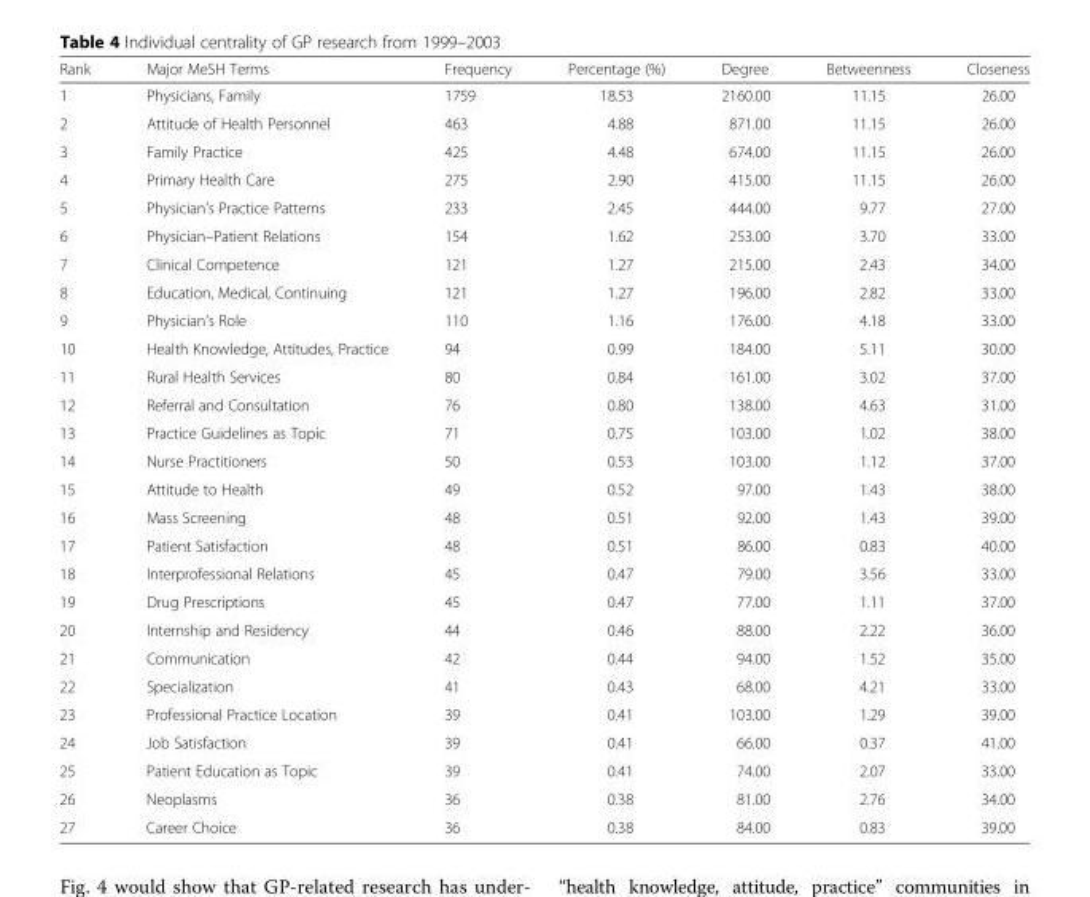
<table><thead><tr><td>Rank</td><td>Major MeSH Terms</td><td>Frequency</td><td>Percentage (%)</td><td>Degree</td><td>Betweenness</td><td>Closeness</td></tr></thead><tbody><tr><td>1</td><td>Physicians, Family</td><td>1759</td><td>18.53</td><td>2160.00</td><td>11.15</td><td>26.00</td></tr><tr><td>2</td><td>Attitude of Health Personnel</td><td>463</td><td>4.88</td><td>871.00</td><td>11.15</td><td>26.00</td></tr><tr><td>3</td><td>Family Practice</td><td>425</td><td>4.48</td><td>674.00</td><td>11.15</td><td>26.00</td></tr><tr><td>4</td><td>Primary Health Care</td><td>275</td><td>2.90</td><td>415.00</td><td>11.15</td><td>26.00</td></tr><tr><td>5</td><td>Physician’s Practice Patterns</td><td>233</td><td>2.45</td><td>444.00</td><td>9.77</td><td>27.00</td></tr><tr><td>6</td><td>Physician–Patient Relations</td><td>154</td><td>1.62</td><td>253.00</td><td>3.70</td><td>33.00</td></tr><tr><td>7</td><td>Clinical Competence</td><td>121</td><td>1.27</td><td>215.00</td><td>2.43</td><td>34.00</td></tr><tr><td>8</td><td>Education, Medical, Continuing</td><td>121</td><td>1.27</td><td>196.00</td><td>2.82</td><td>33.00</td></tr><tr><td>9</td><td>Physician’s Role</td><td>110</td><td>1.16</td><td>176.00</td><td>4.18</td><td>33.00</td></tr><tr><td>10</td><td>Health Knowledge, Attitudes, Practice</td><td>94</td><td>0.99</td><td>184.00</td><td>5.11</td><td>30.00</td></tr><tr><td>11</td><td>Rural Health Services</td><td>80</td><td>0.84</td><td>161.00</td><td>3.02</td><td>37.00</td></tr><tr><td>12</td><td>Referral and Consultation</td><td>76</td><td>0.80</td><td>138.00</td><td>4.63</td><td>31.00</td></tr><tr><td>13</td><td>Practice Guidelines as Topic</td><td>71</td><td>0.75</td><td>103.00</td><td>1.02</td><td>38.00</td></tr><tr><td>14</td><td>Nurse Practitioners</td><td>50</td><td>0.53</td><td>103.00</td><td>1.12</td><td>37.00</td></tr><tr><td>15</td><td>Attitude to Health</td><td>49</td><td>0.52</td><td>97.00</td><td>1.43</td><td>38.00</td></tr><tr><td>16</td><td>Mass Screening</td><td>48</td><td>0.51</td><td>92.00</td><td>1.43</td><td>39.00</td></tr><tr><td>17</td><td>Patient Satisfaction</td><td>48</td><td>0.51</td><td>86.00</td><td>0.83</td><td>40.00</td></tr><tr><td>18</td><td>Interprofessional Relations</td><td>45</td><td>0.47</td><td>79.00</td><td>3.56</td><td>33.00</td></tr><tr><td>19</td><td>Drug Prescriptions</td><td>45</td><td>0.47</td><td>77.00</td><td>1.11</td><td>37.00</td></tr><tr><td>20</td><td>Internship and Residency</td><td>44</td><td>0.46</td><td>88.00</td><td>2.22</td><td>36.00</td></tr><tr><td>21</td><td>Communication</td><td>42</td><td>0.44</td><td>94.00</td><td>1.52</td><td>35.00</td></tr><tr><td>22</td><td>Specialization</td><td>41</td><td>0.43</td><td>68.00</td><td>4.21</td><td>33.00</td></tr><tr><td>23</td><td>Professional Practice Location</td><td>39</td><td>0.41</td><td>103.00</td><td>1.29</td><td>39.00</td></tr><tr><td>24</td><td>Job Satisfaction</td><td>39</td><td>0.41</td><td>66.00</td><td>0.37</td><td>41.00</td></tr><tr><td>25</td><td>Patient Education as Topic</td><td>39</td><td>0.41</td><td>74.00</td><td>2.07</td><td>33.00</td></tr><tr><td>26</td><td>Neoplasms</td><td>36</td><td>0.38</td><td>81.00</td><td>2.76</td><td>34.00</td></tr><tr><td>27</td><td>Career Choice</td><td>36</td><td>0.38</td><td>84.00</td><td>0.83</td><td>39.00</td></tr></tbody></table>